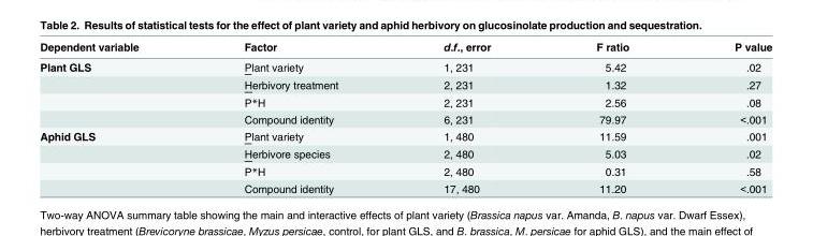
<table><thead><tr><td>Dependent variable</td><td>Factor</td><td>d.f., error</td><td>F ratio</td><td>P value</td></tr></thead><tbody><tr><td rowspan="4">Plant GLS</td><td>Plant variety</td><td>1, 231</td><td>5.42</td><td>.02</td></tr><tr><td>Herbivory treatment</td><td>2, 231</td><td>1.32</td><td>.27</td></tr><tr><td>P*H</td><td>2, 231</td><td>2.56</td><td>.08</td></tr><tr><td>Compound identity</td><td>6, 231</td><td>79.97</td><td>&lt;.001</td></tr><tr><td rowspan="4">Aphid GLS</td><td>Plant variety</td><td>1, 480</td><td>11.59</td><td>.001</td></tr><tr><td>Herbivore species</td><td>2, 480</td><td>5.03</td><td>.02</td></tr><tr><td>P*H</td><td>2, 480</td><td>0.31</td><td>.58</td></tr><tr><td>Compound identity</td><td>17, 480</td><td>11.20</td><td>&lt;.001</td></tr></tbody></table>